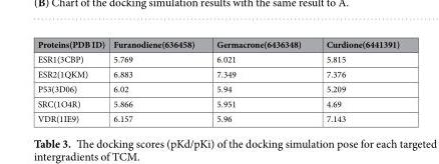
<table><thead><tr><td>Proteins(PDB ID)</td><td>Furanodiene(636458)</td><td>Germacrone(6436348)</td><td>Curdione(6441391)</td></tr></thead><tbody><tr><td>ESR1(3CBP)</td><td>5.769</td><td>6.021</td><td>5.815</td></tr><tr><td>ESR2(1QKM)</td><td>6.883</td><td>7.349</td><td>7.376</td></tr><tr><td>P53(3D06)</td><td>6.02</td><td>5.94</td><td>5.209</td></tr><tr><td>SRC(1O4R)</td><td>5.866</td><td>5.951</td><td>4.69</td></tr><tr><td>VDR(1IE9)</td><td>6.157</td><td>5.96</td><td>7.143</td></tr></tbody></table>